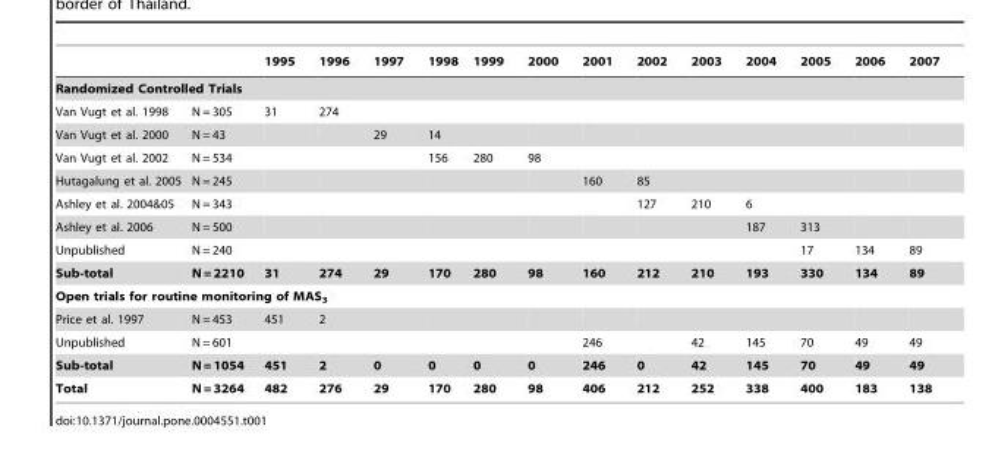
<table><thead><tr><td></td><td></td><td>1995</td><td>1996</td><td>1997</td><td>1998</td><td>1999</td><td>2000</td><td>2001</td><td>2002</td><td>2003</td><td>2004</td><td>2005</td><td>2006</td><td>2007</td></tr></thead><tbody><tr><td colspan="15">Randomized Controlled Trials</td></tr><tr><td>Van Vugt et al. 1998</td><td>N = 305</td><td>31</td><td>274</td><td></td><td></td><td></td><td></td><td></td><td></td><td></td><td></td><td></td><td></td><td></td></tr><tr><td>Van Vugt et al. 2000</td><td>N = 43</td><td></td><td></td><td>29</td><td>14</td><td></td><td></td><td></td><td></td><td></td><td></td><td></td><td></td><td></td></tr><tr><td>Van Vugt et al. 2002</td><td>N = 534</td><td></td><td></td><td></td><td>156</td><td>280</td><td>98</td><td></td><td></td><td></td><td></td><td></td><td></td><td></td></tr><tr><td>Hutagalung et al. 2005</td><td>N = 245</td><td></td><td></td><td></td><td></td><td></td><td></td><td>160</td><td>85</td><td></td><td></td><td></td><td></td><td></td></tr><tr><td>Ashley et al. 2004&amp;05</td><td>N = 343</td><td></td><td></td><td></td><td></td><td></td><td></td><td></td><td>127</td><td>210</td><td>6</td><td></td><td></td><td></td></tr><tr><td>Ashley et al. 2006</td><td>N = 500</td><td></td><td></td><td></td><td></td><td></td><td></td><td></td><td></td><td></td><td>187</td><td>313</td><td></td><td></td></tr><tr><td>Unpublished</td><td>N = 240</td><td></td><td></td><td></td><td></td><td></td><td></td><td></td><td></td><td></td><td></td><td>17</td><td>134</td><td>89</td></tr><tr><td>Sub-total</td><td>N = 2210</td><td>31</td><td>274</td><td>29</td><td>170</td><td>280</td><td>98</td><td>160</td><td>212</td><td>210</td><td>193</td><td>330</td><td>134</td><td>89</td></tr><tr><td colspan="15">Open trials for routine monitoring of MAS<sub>3</sub></td></tr><tr><td>Price et al. 1997</td><td>N = 453</td><td>451</td><td>2</td><td></td><td></td><td></td><td></td><td></td><td></td><td></td><td></td><td></td><td></td><td></td></tr><tr><td>Unpublished</td><td>N = 601</td><td></td><td></td><td></td><td></td><td></td><td></td><td>246</td><td></td><td>42</td><td>145</td><td>70</td><td>49</td><td>49</td></tr><tr><td>Sub-total</td><td>N = 1054</td><td>451</td><td>2</td><td>0</td><td>0</td><td>0</td><td>0</td><td>246</td><td>0</td><td>42</td><td>145</td><td>70</td><td>49</td><td>49</td></tr><tr><td>Total</td><td>N = 3264</td><td>482</td><td>276</td><td>29</td><td>170</td><td>280</td><td>98</td><td>406</td><td>212</td><td>252</td><td>338</td><td>400</td><td>183</td><td>138</td></tr></tbody></table>